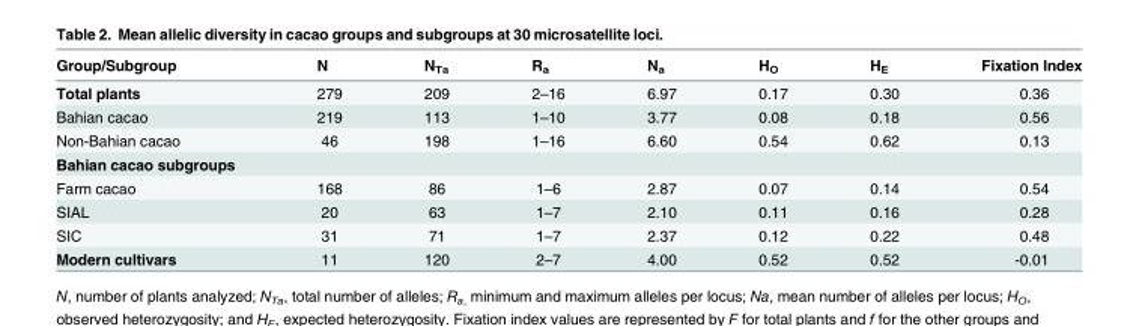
<table><thead><tr><td>Group/Subgroup</td><td>N</td><td>N<sub>Ta</sub></td><td>R<sub>a</sub></td><td>N<sub>a</sub></td><td>H<sub>O</sub></td><td>H<sub>E</sub></td><td>Fixation Index</td></tr></thead><tbody><tr><td>Total plants</td><td>279</td><td>209</td><td>2–16</td><td>6.97</td><td>0.17</td><td>0.30</td><td>0.36</td></tr><tr><td>Bahian cacao</td><td>219</td><td>113</td><td>1–10</td><td>3.77</td><td>0.08</td><td>0.18</td><td>0.56</td></tr><tr><td>Non-Bahian cacao</td><td>46</td><td>198</td><td>1–16</td><td>6.60</td><td>0.54</td><td>0.62</td><td>0.13</td></tr><tr><td colspan="8">Bahian cacao subgroups</td></tr><tr><td>Farm cacao</td><td>168</td><td>86</td><td>1–6</td><td>2.87</td><td>0.07</td><td>0.14</td><td>0.54</td></tr><tr><td>SIAL</td><td>20</td><td>63</td><td>1–7</td><td>2.10</td><td>0.11</td><td>0.16</td><td>0.28</td></tr><tr><td>SIC</td><td>31</td><td>71</td><td>1–7</td><td>2.37</td><td>0.12</td><td>0.22</td><td>0.48</td></tr><tr><td>Modern cultivars</td><td>11</td><td>120</td><td>2–7</td><td>4.00</td><td>0.52</td><td>0.52</td><td>-0.01</td></tr></tbody></table>